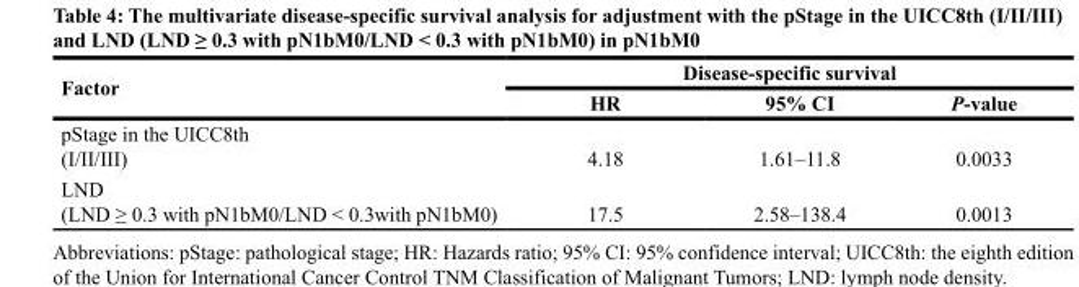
<table><thead><tr><td rowspan="2">Factor</td><td colspan="3">Disease-specific survival</td></tr><tr><td>HR</td><td>95% CI</td><td>P-value</td></tr></thead><tbody><tr><td>pStage in the UICC8th (I/II/III)</td><td>4.18</td><td>1.61–11.8</td><td>0.0033</td></tr><tr><td>LND (LND ≥ 0.3 with pN1bM0/LND &lt; 0.3with pN1bM0)</td><td>17.5</td><td>2.58–138.4</td><td>0.0013</td></tr></tbody></table>